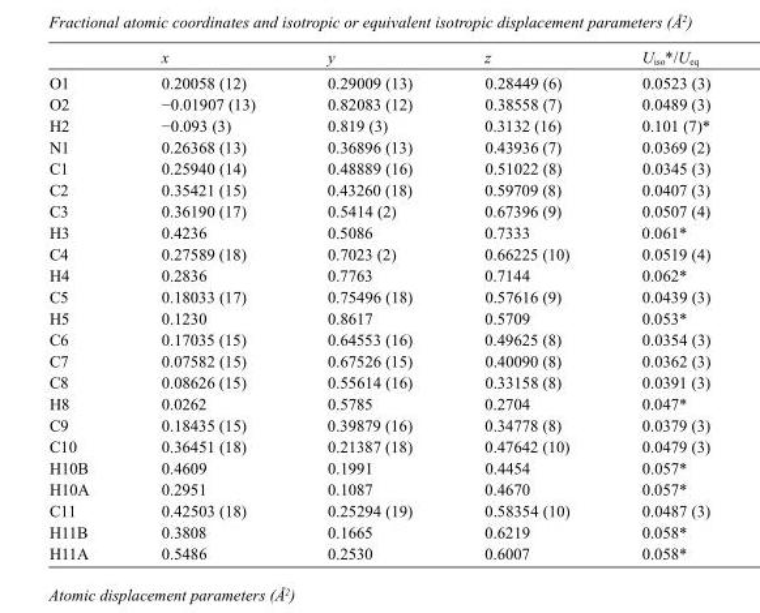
<table><thead><tr><td></td><td>x</td><td>y</td><td>z</td><td>U<sub>iso</sub>*/U<sub>eq</sub></td></tr></thead><tbody><tr><td>O1</td><td>0.20058 (12)</td><td>0.29009 (13)</td><td>0.28449 (6)</td><td>0.0523 (3)</td></tr><tr><td>O2</td><td>−0.01907 (13)</td><td>0.82083 (12)</td><td>0.38558 (7)</td><td>0.0489 (3)</td></tr><tr><td>H2</td><td>−0.093 (3)</td><td>0.819 (3)</td><td>0.3132 (16)</td><td>0.101 (7)*</td></tr><tr><td>N1</td><td>0.26368 (13)</td><td>0.36896 (13)</td><td>0.43936 (7)</td><td>0.0369 (2)</td></tr><tr><td>C1</td><td>0.25940 (14)</td><td>0.48889 (16)</td><td>0.51022 (8)</td><td>0.0345 (3)</td></tr><tr><td>C2</td><td>0.35421 (15)</td><td>0.43260 (18)</td><td>0.59709 (8)</td><td>0.0407 (3)</td></tr><tr><td>C3</td><td>0.36190 (17)</td><td>0.5414 (2)</td><td>0.67396 (9)</td><td>0.0507 (4)</td></tr><tr><td>H3</td><td>0.4236</td><td>0.5086</td><td>0.7333</td><td>0.061*</td></tr><tr><td>C4</td><td>0.27589 (18)</td><td>0.7023 (2)</td><td>0.66225 (10)</td><td>0.0519 (4)</td></tr><tr><td>H4</td><td>0.2836</td><td>0.7763</td><td>0.7144</td><td>0.062*</td></tr><tr><td>C5</td><td>0.18033 (17)</td><td>0.75496 (18)</td><td>0.57616 (9)</td><td>0.0439 (3)</td></tr><tr><td>H5</td><td>0.1230</td><td>0.8617</td><td>0.5709</td><td>0.053*</td></tr><tr><td>C6</td><td>0.17035 (15)</td><td>0.64553 (16)</td><td>0.49625 (8)</td><td>0.0354 (3)</td></tr><tr><td>C7</td><td>0.07582 (15)</td><td>0.67526 (15)</td><td>0.40090 (8)</td><td>0.0362 (3)</td></tr><tr><td>C8</td><td>0.08626 (15)</td><td>0.55614 (16)</td><td>0.33158 (8)</td><td>0.0391 (3)</td></tr><tr><td>H8</td><td>0.0262</td><td>0.5785</td><td>0.2704</td><td>0.047*</td></tr><tr><td>C9</td><td>0.18435 (15)</td><td>0.39879 (16)</td><td>0.34778 (8)</td><td>0.0379 (3)</td></tr><tr><td>C10</td><td>0.36451 (18)</td><td>0.21387 (18)</td><td>0.47642 (10)</td><td>0.0479 (3)</td></tr><tr><td>H10B</td><td>0.4609</td><td>0.1991</td><td>0.4454</td><td>0.057*</td></tr><tr><td>H10A</td><td>0.2951</td><td>0.1087</td><td>0.4670</td><td>0.057*</td></tr><tr><td>C11</td><td>0.42503 (18)</td><td>0.25294 (19)</td><td>0.58354 (10)</td><td>0.0487 (3)</td></tr><tr><td>H11B</td><td>0.3808</td><td>0.1665</td><td>0.6219</td><td>0.058*</td></tr><tr><td>H11A</td><td>0.5486</td><td>0.2530</td><td>0.6007</td><td>0.058*</td></tr></tbody></table>